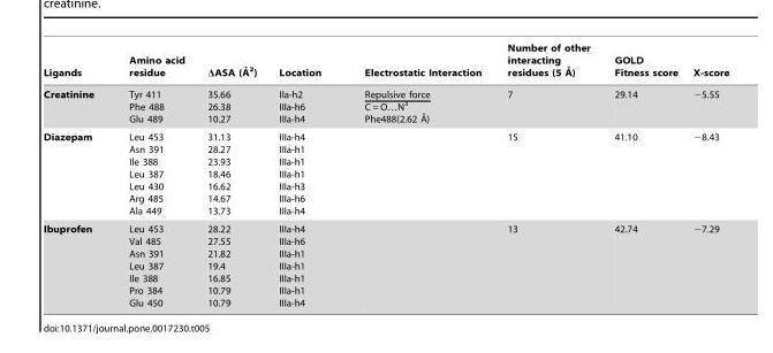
<table><thead><tr><td>Ligands</td><td>Amino acid residue</td><td>DASA (A˚ 2)</td><td>Location</td><td>Electrostatic Interaction</td><td>Number of other interacting residues (5 A˚ )</td><td>GOLD Fitness score</td><td>X-score</td></tr></thead><tbody><tr><td>Creatinine</td><td>Tyr 411 Phe 488 Glu 489</td><td>35.66 26.38 10.27</td><td>IIa-h2 IIIa-h6 IIIa-h4</td><td>Repulsive force C = O…N3 Phe488(2.62 A˚)</td><td>7</td><td>29.14</td><td>−5.55</td></tr><tr><td>Diazepam</td><td>Leu 453 Asn 391 Ile 388 Leu 387 Leu 430 Arg 485 Ala 449</td><td>31.13 28.27 23.93 18.46 16.62 14.67 13.73</td><td>IIIa-h4 IIIa-h1 IIIa-h1 IIIa-h1 IIIa-h3 IIIa-h6 IIIa-h4</td><td></td><td>15</td><td>41.10</td><td>−8.43</td></tr><tr><td>Ibuprofen</td><td>Leu 453 Val 485 Asn 391 Leu 387 Ile 388 Pro 384 Glu 450</td><td>28.22 27.55 21.82 19.4 16.85 10.79 10.79</td><td>IIIa-h4 IIIa-h6 IIIa-h1 IIIa-h1 IIIa-h1 IIIa-h1 IIIa-h4</td><td></td><td>13</td><td>42.74</td><td>−7.29</td></tr></tbody></table>